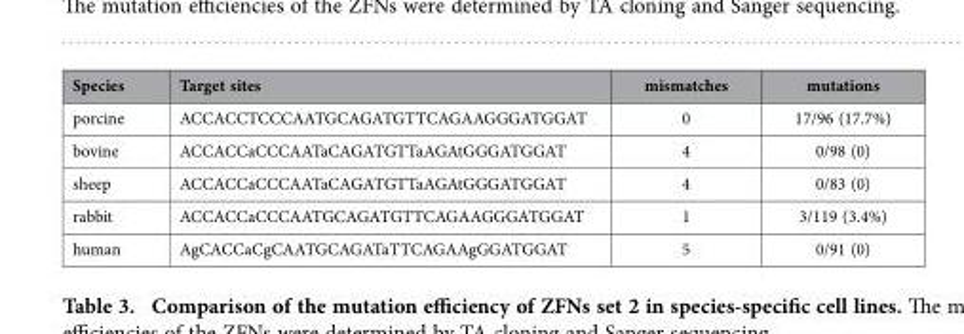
<table><thead><tr><td>Species</td><td>Target sites</td><td>mismatches</td><td>mutations</td></tr></thead><tbody><tr><td>porcine</td><td>ACCACCTCCCAATGCAGATGTTCAGAAGGGATGGAT</td><td>0</td><td>17/96 (17.7%)</td></tr><tr><td>bovine</td><td>ACCACCaCCCAATaCAGATGTTaAGAtGGGATGGAT</td><td>4</td><td>0/98 (0)</td></tr><tr><td>sheep</td><td>ACCACCaCCCAATaCAGATGTTaAGAtGGGATGGAT</td><td>4</td><td>0/83 (0)</td></tr><tr><td>rabbit</td><td>ACCACCaCCCAATGCAGATGTTCAGAAGGGATGGAT</td><td>1</td><td>3/119 (3.4%)</td></tr><tr><td>human</td><td>AgCACCaCgCAATGCAGATaTTCAGAAgGGATGGAT</td><td>5</td><td>0/91 (0)</td></tr></tbody></table>